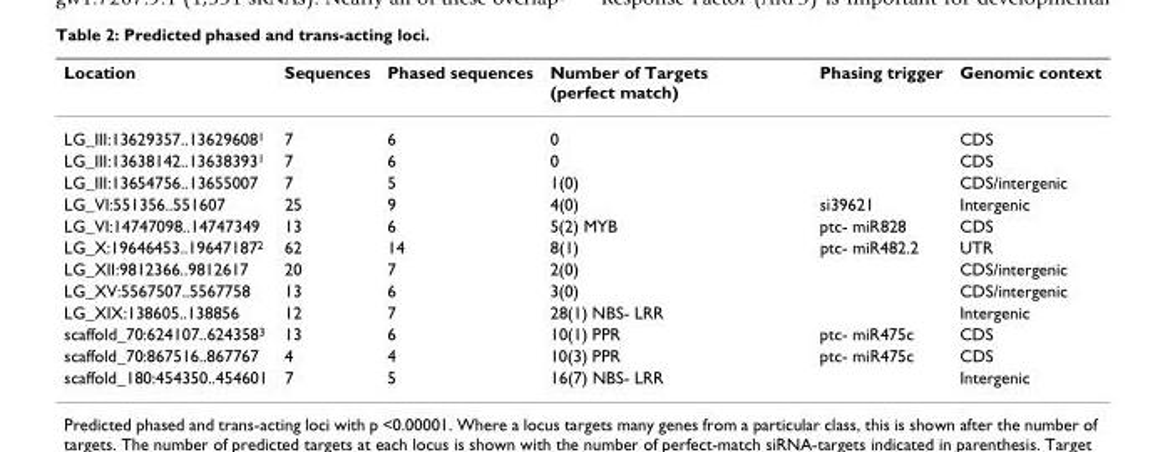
<table><thead><tr><td>Location</td><td>Sequences</td><td>Phased sequences</td><td>Number of Targets (perfect match)</td><td>Phasing trigger</td><td>Genomic context</td></tr></thead><tbody><tr><td>LG_III:13629357..13629608<sup>1</sup></td><td>7</td><td>6</td><td>0</td><td></td><td>CDS</td></tr><tr><td>LG_III:13638142..13638393<sup>1</sup></td><td>7</td><td>6</td><td>0</td><td></td><td>CDS</td></tr><tr><td>LG_III:13654756..13655007</td><td>7</td><td>5</td><td>1(0)</td><td></td><td>CDS/intergenic</td></tr><tr><td>LG_VI:551356..551607</td><td>25</td><td>9</td><td>4(0)</td><td>si39621</td><td>Intergenic</td></tr><tr><td>LG_VI:14747098..14747349</td><td>13</td><td>6</td><td>5(2) MYB</td><td>ptc- miR828</td><td>CDS</td></tr><tr><td>LG_X:19646453..19647187<sup>2</sup></td><td>62</td><td>14</td><td>8(1)</td><td>ptc- miR482.2</td><td>UTR</td></tr><tr><td>LG_XII:9812366..9812617</td><td>20</td><td>7</td><td>2(0)</td><td></td><td>CDS/intergenic</td></tr><tr><td>LG_XV:5567507..5567758</td><td>13</td><td>6</td><td>3(0)</td><td></td><td>CDS/intergenic</td></tr><tr><td>LG_XIX:138605..138856</td><td>12</td><td>7</td><td>28(1) NBS- LRR</td><td></td><td>Intergenic</td></tr><tr><td>scaffold_70:624107..624358<sup>3</sup></td><td>13</td><td>6</td><td>10(1) PPR</td><td>ptc- miR475c</td><td>CDS</td></tr><tr><td>scaffold_70:867516..867767</td><td>4</td><td>4</td><td>10(3) PPR</td><td>ptc- miR475c</td><td>CDS</td></tr><tr><td>scaffold_180:454350..454601</td><td>7</td><td>5</td><td>16(7) NBS- LRR</td><td></td><td>Intergenic</td></tr></tbody></table>